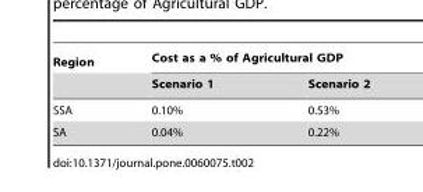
<table><thead><tr><td rowspan="2">Region</td><td colspan="2">Cost as a % of Agricultural GDP</td></tr><tr><td>Scenario 1</td><td>Scenario 2</td></tr></thead><tbody><tr><td>SSA</td><td>0.10%</td><td>0.53%</td></tr><tr><td>SA</td><td>0.04%</td><td>0.22%</td></tr></tbody></table>